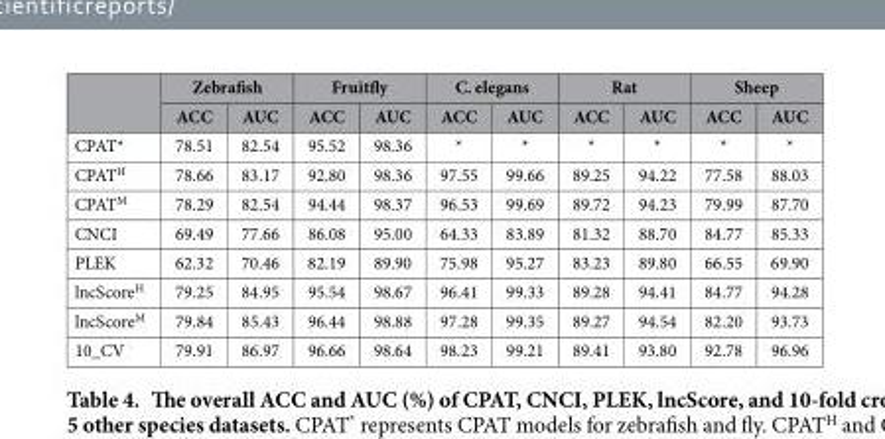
<table><thead><tr><td rowspan="2"></td><td colspan="2">Zebrafish</td><td colspan="2">Fruitfly</td><td colspan="2">C. elegans</td><td colspan="2">Rat</td><td colspan="2">Sheep</td></tr><tr><td>ACC</td><td>AUC</td><td>ACC</td><td>AUC</td><td>ACC</td><td>AUC</td><td>ACC</td><td>AUC</td><td>ACC</td><td>AUC</td></tr></thead><tbody><tr><td>CPAT*</td><td>78.51</td><td>82.54</td><td>95.52</td><td>98.36</td><td>*</td><td>*</td><td>*</td><td>*</td><td>*</td><td>*</td></tr><tr><td>CPAT<sup>H</sup></td><td>78.66</td><td>83.17</td><td>92.80</td><td>98.36</td><td>97.55</td><td>99.66</td><td>89.25</td><td>94.22</td><td>77.58</td><td>88.03</td></tr><tr><td>CPAT<sup>M</sup></td><td>78.29</td><td>82.54</td><td>94.44</td><td>98.37</td><td>96.53</td><td>99.69</td><td>89.72</td><td>94.23</td><td>79.99</td><td>87.70</td></tr><tr><td>CNCI</td><td>69.49</td><td>77.66</td><td>86.08</td><td>95.00</td><td>64.33</td><td>83.89</td><td>81.32</td><td>88.70</td><td>84.77</td><td>85.33</td></tr><tr><td>PLEK</td><td>62.32</td><td>70.46</td><td>82.19</td><td>89.90</td><td>75.98</td><td>95.27</td><td>83.23</td><td>89.80</td><td>66.55</td><td>69.90</td></tr><tr><td>lncScore<sup>H</sup></td><td>79.25</td><td>84.95</td><td>95.54</td><td>98.67</td><td>96.41</td><td>99.33</td><td>89.28</td><td>94.41</td><td>84.77</td><td>94.28</td></tr><tr><td>lncScore<sup>M</sup></td><td>79.84</td><td>85.43</td><td>96.44</td><td>98.88</td><td>97.28</td><td>99.35</td><td>89.27</td><td>94.54</td><td>82.20</td><td>93.73</td></tr><tr><td>10_CV</td><td>79.91</td><td>86.97</td><td>96.66</td><td>98.64</td><td>98.23</td><td>99.21</td><td>89.41</td><td>93.80</td><td>92.78</td><td>96.96</td></tr></tbody></table>